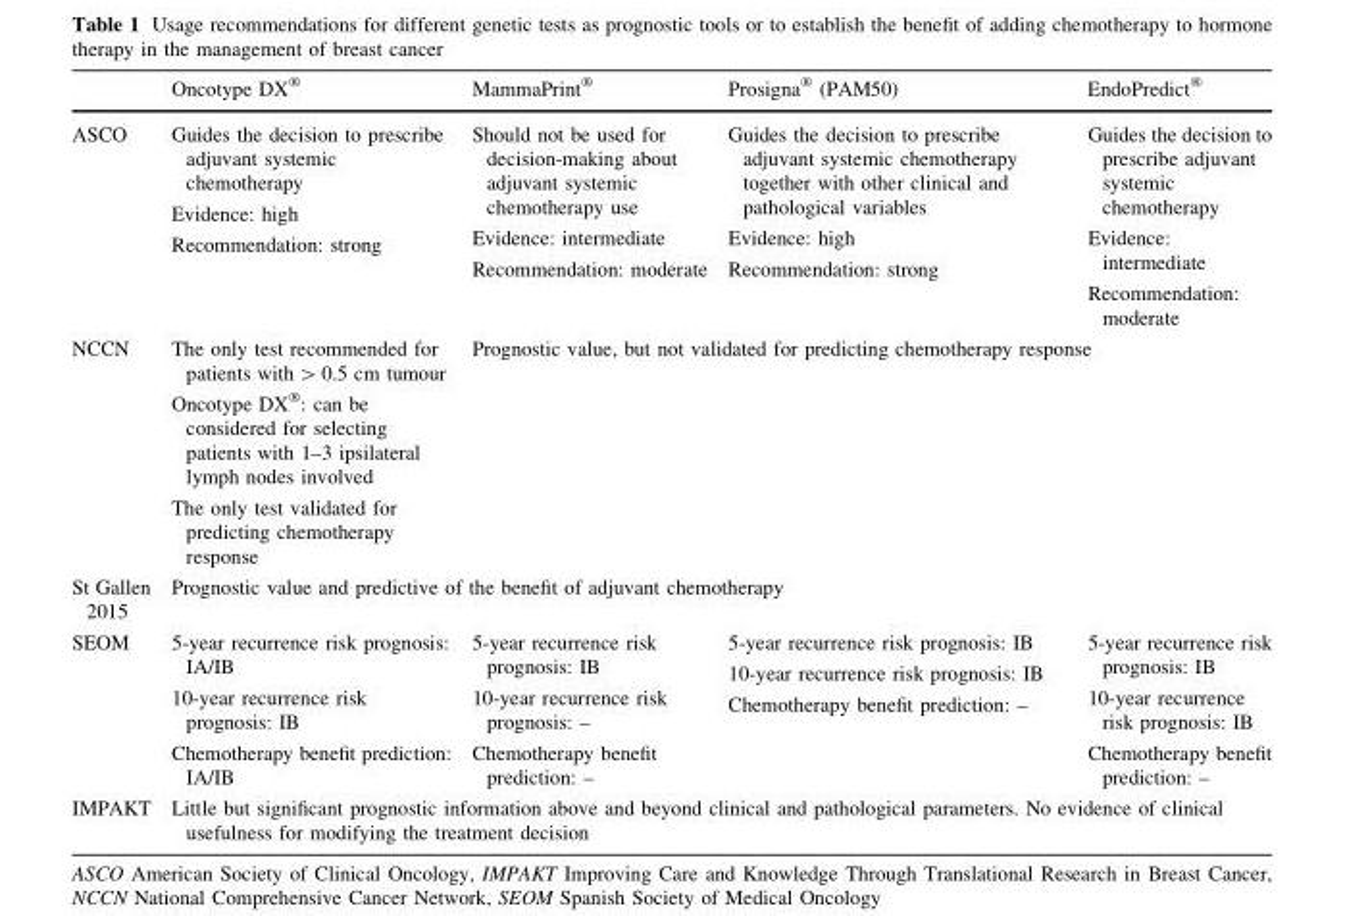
<table><thead><tr><td></td><td>Oncotype DX<sup>®</sup></td><td>MammaPrint<sup>®</sup></td><td>Prosigna<sup>®</sup> (PAM50)</td><td>EndoPredict<sup>®</sup></td></tr></thead><tbody><tr><td>ASCO</td><td>Guides the decision to prescribe adjuvant systemic chemotherapy Evidence: high Recommendation: strong</td><td>Should not be used for decision-making about adjuvant systemic chemotherapy use Evidence: intermediate Recommendation: moderate</td><td>Guides the decision to prescribe adjuvant systemic chemotherapy together with other clinical and pathological variables Evidence: high Recommendation: strong</td><td>Guides the decision to prescribe adjuvant systemic chemotherapy Evidence: intermediate Recommendation: moderate</td></tr><tr><td>NCCN</td><td>The only test recommended for patients with &gt; 0.5 cm tumour Oncotype DX<sup>®</sup>: can be considered for selecting patients with 1–3 ipsilateral lymph nodes involved The only test validated for predicting chemotherapy response</td><td colspan="3">Prognostic value, but not validated for predicting chemotherapy response</td></tr><tr><td>St Gallen 2015</td><td colspan="4">Prognostic value and predictive of the benefit of adjuvant chemotherapy</td></tr><tr><td>SEOM</td><td>5-year recurrence risk prognosis: IA/IB 10-year recurrence risk prognosis: IB Chemotherapy benefit prediction: IA/IB</td><td>5-year recurrence risk prognosis: IB 10-year recurrence risk prognosis: – Chemotherapy benefit prediction: –</td><td>5-year recurrence risk prognosis: IB 10-year recurrence risk prognosis: IB Chemotherapy benefit prediction: –</td><td>5-year recurrence risk prognosis: IB 10-year recurrence risk prognosis: IB Chemotherapy benefit prediction: –</td></tr><tr><td>IMPAKT</td><td colspan="4">Little but significant prognostic information above and beyond clinical and pathological parameters. No evidence of clinical usefulness for modifying the treatment decision</td></tr></tbody></table>